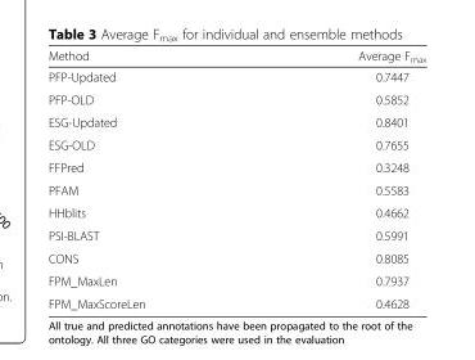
<table><thead><tr><td>Method</td><td>Average F<sub>max</sub></td></tr></thead><tbody><tr><td>PFP-Updated</td><td>0.7447</td></tr><tr><td>PFP-OLD</td><td>0.5852</td></tr><tr><td>ESG-Updated</td><td>0.8401</td></tr><tr><td>ESG-OLD</td><td>0.7655</td></tr><tr><td>FFPred</td><td>0.3248</td></tr><tr><td>PFAM</td><td>0.5583</td></tr><tr><td>HHblits</td><td>0.4662</td></tr><tr><td>PSI-BLAST</td><td>0.5991</td></tr><tr><td>CONS</td><td>0.8085</td></tr><tr><td>FPM_MaxLen</td><td>0.7937</td></tr><tr><td>FPM_MaxScoreLen</td><td>0.4628</td></tr></tbody></table>